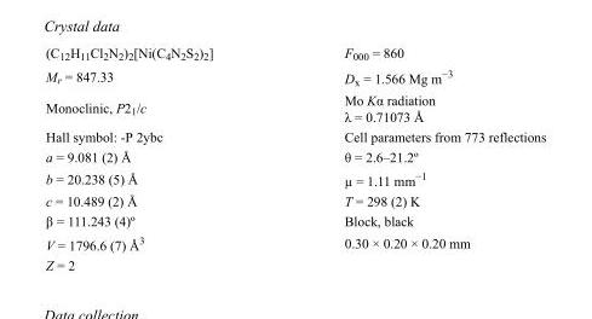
<table><tbody><tr><td>(C<sub>12</sub>H<sub>11</sub>Cl<sub>2</sub>N<sub>2</sub>)<sub>2</sub>[Ni(C<sub>4</sub>N<sub>2</sub>S<sub>2</sub>)<sub>2</sub>]</td><td>F000 = 860</td></tr><tr><td>M<sub>r</sub> = 847.33</td><td>D<sub>x</sub> = 1.566 Mg m<sup>−3</sup></td></tr><tr><td>Monoclinic, P2<sub>1</sub>/c</td><td>Mo Kα radiation λ = 0.71073 Å</td></tr><tr><td>Hall symbol: -P 2ybc</td><td>Cell parameters from 773 reflections</td></tr><tr><td>a = 9.081 (2) Å</td><td>θ = 2.6–21.2º</td></tr><tr><td>b = 20.238 (5) Å</td><td>µ = 1.11 mm<sup>−1</sup></td></tr><tr><td>c = 10.489 (2) Å</td><td>T = 298 (2) K</td></tr><tr><td>β = 111.243 (4)º</td><td>Block, black</td></tr><tr><td>V = 1796.6 (7) Å<sup>3</sup></td><td>0.30 × 0.20 × 0.20 mm</td></tr><tr><td>Z = 2</td><td></td></tr></tbody></table>